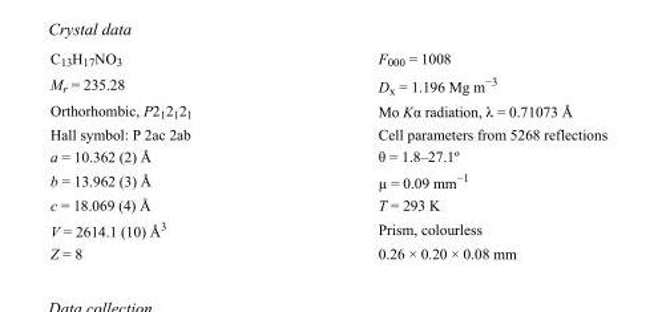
<table><tbody><tr><td>C<sub>13</sub>H<sub>17</sub>NO<sub>3</sub></td><td>F000 = 1008</td></tr><tr><td>M<sub>r</sub> = 235.28</td><td>D<sub>x</sub> = 1.196 Mg m<sup>−3</sup></td></tr><tr><td>Orthorhombic, P2<sub>1</sub>2<sub>1</sub>2<sub>1</sub></td><td>Mo Kα radiation, λ = 0.71073 Å</td></tr><tr><td>Hall symbol: P 2ac 2ab</td><td>Cell parameters from 5268 reflections</td></tr><tr><td>a = 10.362 (2) Å</td><td>θ = 1.8–27.1º</td></tr><tr><td>b = 13.962 (3) Å</td><td>µ = 0.09 mm<sup>−1</sup></td></tr><tr><td>c = 18.069 (4) Å</td><td>T = 293 K</td></tr><tr><td>V = 2614.1 (10) Å<sup>3</sup></td><td>Prism, colourless</td></tr><tr><td>Z = 8</td><td>0.26 × 0.20 × 0.08 mm</td></tr></tbody></table>